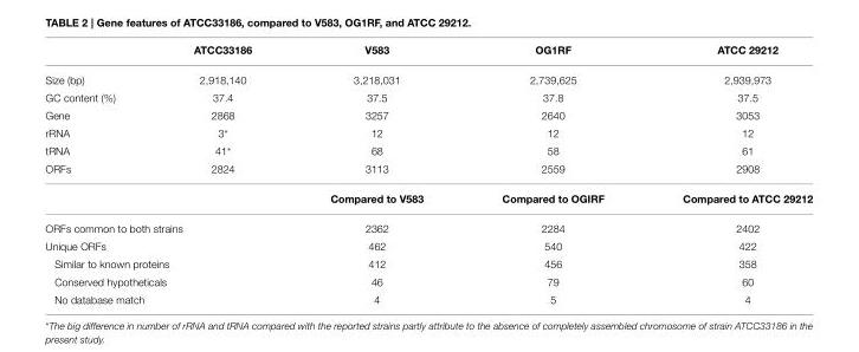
<table><thead><tr><td></td><td>ATCC33186</td><td>V583</td><td>OG1RF</td><td>ATCC 29212</td></tr></thead><tbody><tr><td>Size (bp)</td><td>2,918,140</td><td>3,218,031</td><td>2,739,625</td><td>2,939,973</td></tr><tr><td>GC content (%)</td><td>37.4</td><td>37.5</td><td>37.8</td><td>37.5</td></tr><tr><td>Gene</td><td>2868</td><td>3257</td><td>2640</td><td>3053</td></tr><tr><td>rRNA</td><td>3*</td><td>12</td><td>12</td><td>12</td></tr><tr><td>tRNA</td><td>41*</td><td>68</td><td>58</td><td>61</td></tr><tr><td>ORFs</td><td>2824</td><td>3113</td><td>2559</td><td>2908</td></tr><tr><td colspan="2"></td><td>Compared to V583</td><td>Compared to OGIRF</td><td>Compared to ATCC 29212</td></tr><tr><td colspan="2">ORFs common to both strains</td><td>2362</td><td>2284</td><td>2402</td></tr><tr><td colspan="2">Unique ORFs</td><td>462</td><td>540</td><td>422</td></tr><tr><td colspan="2">Similar to known proteins</td><td>412</td><td>456</td><td>358</td></tr><tr><td colspan="2">Conserved hypotheticals</td><td>46</td><td>79</td><td>60</td></tr><tr><td colspan="2">No database match</td><td>4</td><td>5</td><td>4</td></tr></tbody></table>